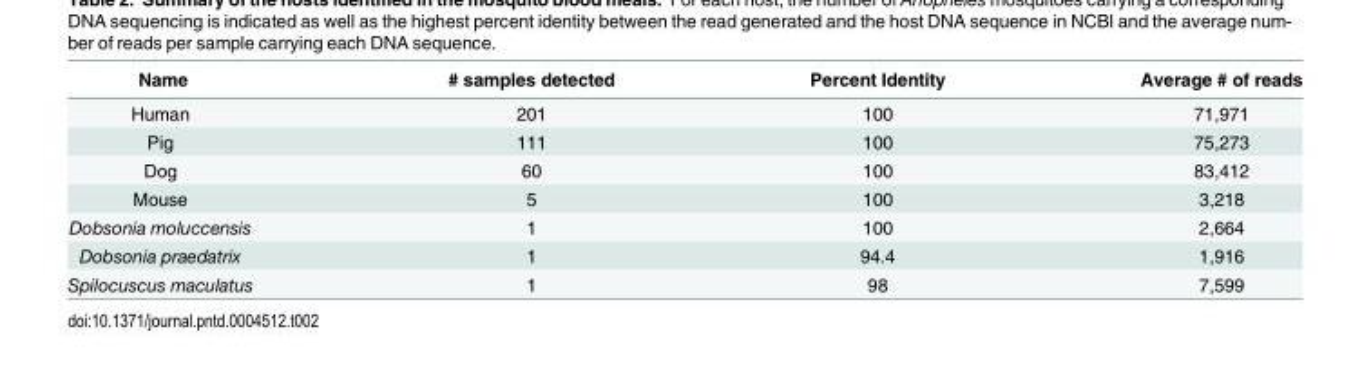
<table><thead><tr><td>Name</td><td># samples detected</td><td>Percent Identity</td><td>Average # of reads</td></tr></thead><tbody><tr><td>Human</td><td>201</td><td>100</td><td>71,971</td></tr><tr><td>Pig</td><td>111</td><td>100</td><td>75,273</td></tr><tr><td>Dog</td><td>60</td><td>100</td><td>83,412</td></tr><tr><td>Mouse</td><td>5</td><td>100</td><td>3,218</td></tr><tr><td>Dobsonia moluccensis</td><td>1</td><td>100</td><td>2,664</td></tr><tr><td>Dobsonia praedatrix</td><td>1</td><td>94.4</td><td>1,916</td></tr><tr><td>Spilocuscus maculatus</td><td>1</td><td>98</td><td>7,599</td></tr></tbody></table>